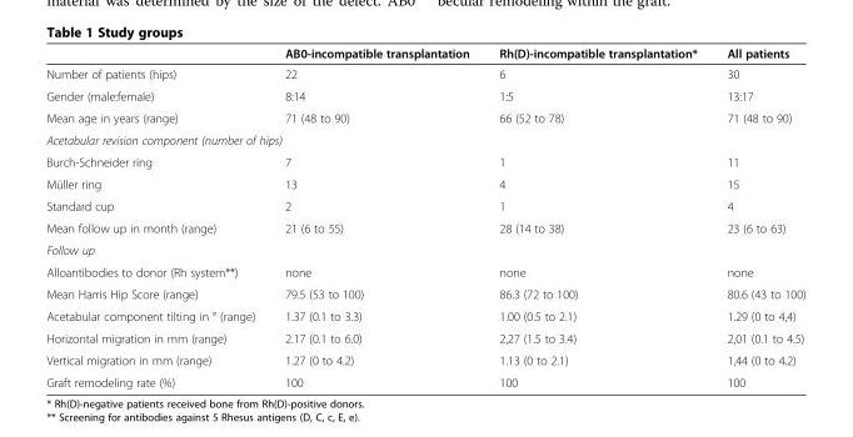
<table><thead><tr><td></td><td>AB0-incompatible transplantation</td><td>Rh(D)-incompatible transplantation*</td><td>All patients</td></tr></thead><tbody><tr><td>Number of patients (hips)</td><td>22</td><td>6</td><td>30</td></tr><tr><td>Gender (male:female)</td><td>8:14</td><td>1:5</td><td>13:17</td></tr><tr><td>Mean age in years (range)</td><td>71 (48 to 90)</td><td>66 (52 to 78)</td><td>71 (48 to 90)</td></tr><tr><td colspan="4">Acetabular revision component (number of hips)</td></tr><tr><td>Burch-Schneider ring</td><td>7</td><td>1</td><td>11</td></tr><tr><td>Müller ring</td><td>13</td><td>4</td><td>15</td></tr><tr><td>Standard cup</td><td>2</td><td>1</td><td>4</td></tr><tr><td>Mean follow up in month (range)</td><td>21 (6 to 55)</td><td>28 (14 to 38)</td><td>23 (6 to 63)</td></tr><tr><td colspan="4">Follow up</td></tr><tr><td>Alloantibodies to donor (Rh system**)</td><td>none</td><td>none</td><td>none</td></tr><tr><td>Mean Harris Hip Score (range)</td><td>79.5 (53 to 100)</td><td>86.3 (72 to 100)</td><td>80.6 (43 to 100)</td></tr><tr><td>Acetabular component tilting in ° (range)</td><td>1.37 (0.1 to 3.3)</td><td>1.00 (0.5 to 2.1)</td><td>1.29 (0 to 4,4)</td></tr><tr><td>Horizontal migration in mm (range)</td><td>2.17 (0.1 to 6.0)</td><td>2,27 (1.5 to 3.4)</td><td>2,01 (0.1 to 4.5)</td></tr><tr><td>Vertical migration in mm (range)</td><td>1.27 (0 to 4.2)</td><td>1.13 (0 to 2.1)</td><td>1,44 (0 to 4.2)</td></tr><tr><td>Graft remodeling rate (%)</td><td>100</td><td>100</td><td>100</td></tr></tbody></table>